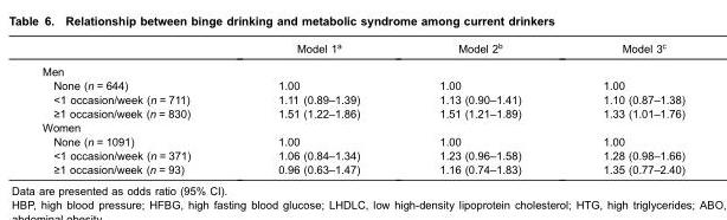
<table><thead><tr><td></td><td>Model 1<sup>a</sup></td><td>Model 2<sup>b</sup></td><td>Model 3<sup>c</sup></td></tr></thead><tbody><tr><td colspan="4">Men</td></tr><tr><td>None (n = 644)</td><td>1.00</td><td>1.00</td><td>1.00</td></tr><tr><td>&lt;1 occasion/week (n = 711)</td><td>1.11 (0.89–1.39)</td><td>1.13 (0.90–1.41)</td><td>1.10 (0.87–1.38)</td></tr><tr><td>≥1 occasion/week (n = 830)</td><td>1.51 (1.22–1.86)</td><td>1.51 (1.21–1.89)</td><td>1.33 (1.01–1.76)</td></tr><tr><td colspan="4">Women</td></tr><tr><td>None (n = 1091)</td><td>1.00</td><td>1.00</td><td>1.00</td></tr><tr><td>&lt;1 occasion/week (n = 371)</td><td>1.06 (0.84–1.34)</td><td>1.23 (0.96–1.58)</td><td>1.28 (0.98–1.66)</td></tr><tr><td>≥1 occasion/week (n = 93)</td><td>0.96 (0.63–1.47)</td><td>1.16 (0.74–1.83)</td><td>1.35 (0.77–2.40)</td></tr></tbody></table>